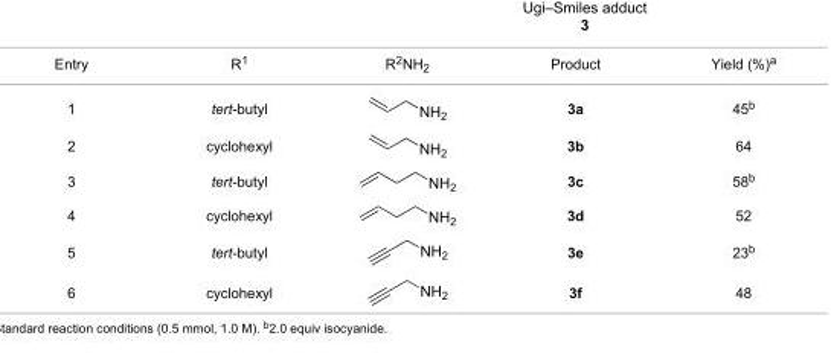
<table><tbody><tr><td>Entry</td><td>R<sup>1</sup></td><td>R<sup>2</sup>NH<sub>2</sub></td><td>Product</td><td>Yield (%)<sup>a</sup></td></tr><tr><td>1</td><td>tert-butyl</td><td></td><td>3a</td><td>45<sup>b</sup></td></tr><tr><td>2</td><td>cyclohexyl</td><td></td><td>3b</td><td>64</td></tr><tr><td>3</td><td>tert-butyl</td><td></td><td>3c</td><td>58<sup>b</sup></td></tr><tr><td>4</td><td>cyclohexyl</td><td></td><td>3d</td><td>52</td></tr><tr><td>5</td><td>tert-butyl</td><td></td><td>3e</td><td>23<sup>b</sup></td></tr><tr><td>6</td><td>cyclohexyl</td><td></td><td>3f</td><td>48</td></tr></tbody></table>